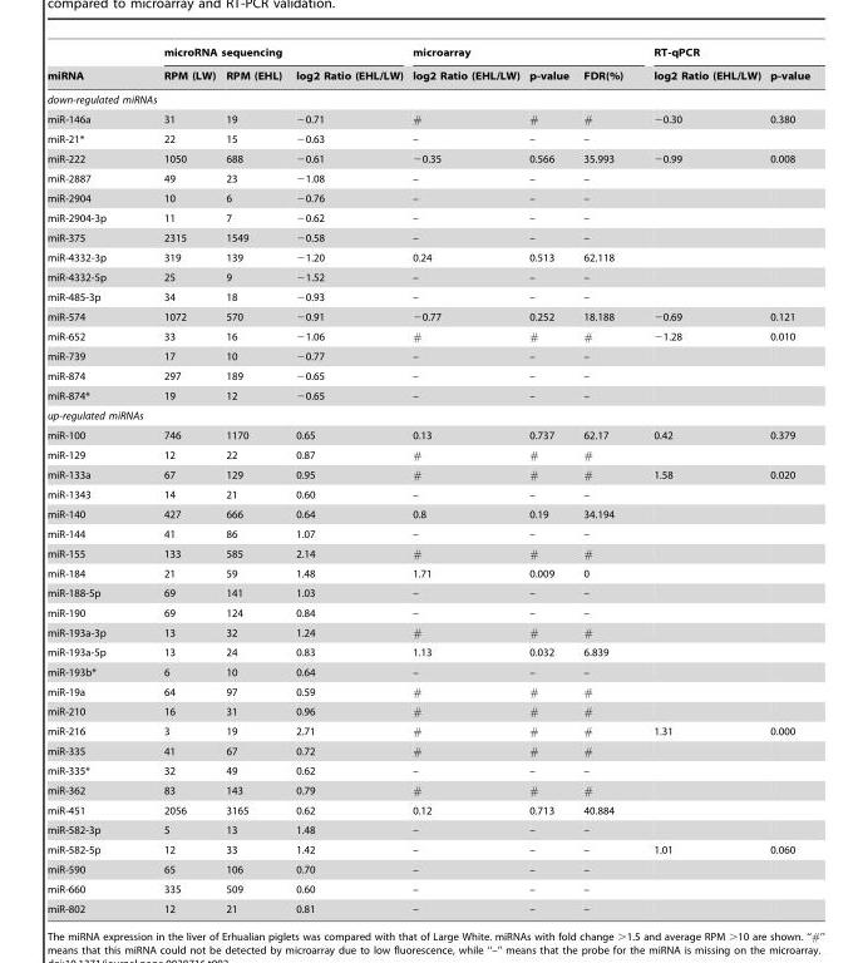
<table><thead><tr><td rowspan="2">miRNA</td><td colspan="3">microRNA sequencing</td><td colspan="3">microarray</td><td colspan="2">RT-qPCR</td></tr><tr><td>RPM (LW)</td><td>RPM (EHL)</td><td>log2 Ratio (EHL/LW)</td><td>log2 Ratio (EHL/LW)</td><td>p-value</td><td>FDR(%)</td><td>log2 Ratio (EHL/LW)</td><td>p-value</td></tr></thead><tbody><tr><td colspan="9">down-regulated miRNAs</td></tr><tr><td>miR-146a</td><td>31</td><td>19</td><td>−0.71</td><td>#</td><td>#</td><td>#</td><td>−0.30</td><td>0.380</td></tr><tr><td>miR-21*</td><td>22</td><td>15</td><td>−0.63</td><td>–</td><td>–</td><td>–</td><td></td><td></td></tr><tr><td>miR-222</td><td>1050</td><td>688</td><td>−0.61</td><td>−0.35</td><td>0.566</td><td>35.993</td><td>−0.99</td><td>0.008</td></tr><tr><td>miR-2887</td><td>49</td><td>23</td><td>−1.08</td><td>–</td><td>–</td><td>–</td><td></td><td></td></tr><tr><td>miR-2904</td><td>10</td><td>6</td><td>−0.76</td><td>–</td><td>–</td><td>–</td><td></td><td></td></tr><tr><td>miR-2904-3p</td><td>11</td><td>7</td><td>−0.62</td><td>–</td><td>–</td><td>–</td><td></td><td></td></tr><tr><td>miR-375</td><td>2315</td><td>1549</td><td>−0.58</td><td>–</td><td>–</td><td>–</td><td></td><td></td></tr><tr><td>miR-4332-3p</td><td>319</td><td>139</td><td>−1.20</td><td>0.24</td><td>0.513</td><td>62.118</td><td></td><td></td></tr><tr><td>miR-4332-5p</td><td>25</td><td>9</td><td>−1.52</td><td>–</td><td>–</td><td>–</td><td></td><td></td></tr><tr><td>miR-485-3p</td><td>34</td><td>18</td><td>−0.93</td><td>–</td><td>–</td><td>–</td><td></td><td></td></tr><tr><td>miR-574</td><td>1072</td><td>570</td><td>−0.91</td><td>−0.77</td><td>0.252</td><td>18.188</td><td>−0.69</td><td>0.121</td></tr><tr><td>miR-652</td><td>33</td><td>16</td><td>−1.06</td><td>#</td><td>#</td><td>#</td><td>−1.28</td><td>0.010</td></tr><tr><td>miR-739</td><td>17</td><td>10</td><td>−0.77</td><td>–</td><td>–</td><td>–</td><td></td><td></td></tr><tr><td>miR-874</td><td>297</td><td>189</td><td>−0.65</td><td>–</td><td>–</td><td>–</td><td></td><td></td></tr><tr><td>miR-874*</td><td>19</td><td>12</td><td>−0.65</td><td>–</td><td>–</td><td>–</td><td></td><td></td></tr><tr><td colspan="9">up-regulated miRNAs</td></tr><tr><td>miR-100</td><td>746</td><td>1170</td><td>0.65</td><td>0.13</td><td>0.737</td><td>62.17</td><td>0.42</td><td>0.379</td></tr><tr><td>miR-129</td><td>12</td><td>22</td><td>0.87</td><td>#</td><td>#</td><td>#</td><td></td><td></td></tr><tr><td>miR-133a</td><td>67</td><td>129</td><td>0.95</td><td>#</td><td>#</td><td>#</td><td>1.58</td><td>0.020</td></tr><tr><td>miR-1343</td><td>14</td><td>21</td><td>0.60</td><td>–</td><td>–</td><td>–</td><td></td><td></td></tr><tr><td>miR-140</td><td>427</td><td>666</td><td>0.64</td><td>0.8</td><td>0.19</td><td>34.194</td><td></td><td></td></tr><tr><td>miR-144</td><td>41</td><td>86</td><td>1.07</td><td>–</td><td>–</td><td>–</td><td></td><td></td></tr><tr><td>miR-155</td><td>133</td><td>585</td><td>2.14</td><td>#</td><td>#</td><td>#</td><td></td><td></td></tr><tr><td>miR-184</td><td>21</td><td>59</td><td>1.48</td><td>1.71</td><td>0.009</td><td>0</td><td></td><td></td></tr><tr><td>miR-188-5p</td><td>69</td><td>141</td><td>1.03</td><td>–</td><td>–</td><td>–</td><td></td><td></td></tr><tr><td>miR-190</td><td>69</td><td>124</td><td>0.84</td><td>–</td><td>–</td><td>–</td><td></td><td></td></tr><tr><td>miR-193a-3p</td><td>13</td><td>32</td><td>1.24</td><td>#</td><td>#</td><td>#</td><td></td><td></td></tr><tr><td>miR-193a-5p</td><td>13</td><td>24</td><td>0.83</td><td>1.13</td><td>0.032</td><td>6.839</td><td></td><td></td></tr><tr><td>miR-193b*</td><td>6</td><td>10</td><td>0.64</td><td>–</td><td>–</td><td>–</td><td></td><td></td></tr><tr><td>miR-19a</td><td>64</td><td>97</td><td>0.59</td><td>#</td><td>#</td><td>#</td><td></td><td></td></tr><tr><td>miR-210</td><td>16</td><td>31</td><td>0.96</td><td>#</td><td>#</td><td>#</td><td></td><td></td></tr><tr><td>miR-216</td><td>3</td><td>19</td><td>2.71</td><td>#</td><td>#</td><td>#</td><td>1.31</td><td>0.000</td></tr><tr><td>miR-335</td><td>41</td><td>67</td><td>0.72</td><td>#</td><td>#</td><td>#</td><td></td><td></td></tr><tr><td>miR-335*</td><td>32</td><td>49</td><td>0.62</td><td>–</td><td>–</td><td>–</td><td></td><td></td></tr><tr><td>miR-362</td><td>83</td><td>143</td><td>0.79</td><td>#</td><td>#</td><td>#</td><td></td><td></td></tr><tr><td>miR-451</td><td>2056</td><td>3165</td><td>0.62</td><td>0.12</td><td>0.713</td><td>40.884</td><td></td><td></td></tr><tr><td>miR-582-3p</td><td>5</td><td>13</td><td>1.48</td><td>–</td><td>–</td><td>–</td><td></td><td></td></tr><tr><td>miR-582-5p</td><td>12</td><td>33</td><td>1.42</td><td>–</td><td>–</td><td>–</td><td>1.01</td><td>0.060</td></tr><tr><td>miR-590</td><td>65</td><td>106</td><td>0.70</td><td>–</td><td>–</td><td>–</td><td></td><td></td></tr><tr><td>miR-660</td><td>335</td><td>509</td><td>0.60</td><td>–</td><td>–</td><td>–</td><td></td><td></td></tr><tr><td>miR-802</td><td>12</td><td>21</td><td>0.81</td><td>–</td><td>–</td><td>–</td><td></td><td></td></tr></tbody></table>